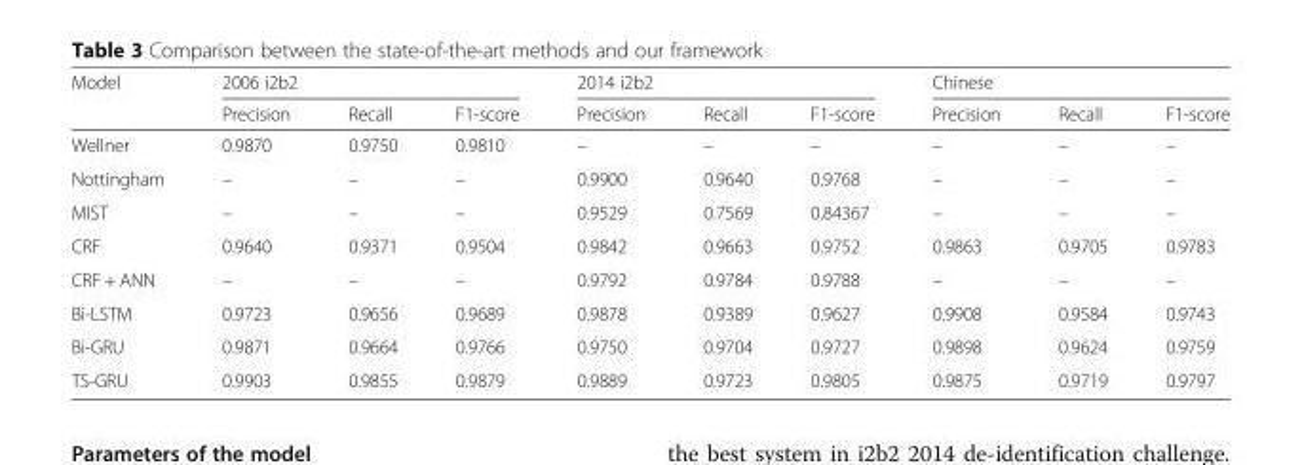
<table><thead><tr><td rowspan="2">Model</td><td colspan="3">2006 i2b2</td><td colspan="3">2014 i2b2</td><td colspan="3">Chinese</td></tr><tr><td>Precision</td><td>Recall</td><td>F1-score</td><td>Precision</td><td>Recall</td><td>F1-score</td><td>Precision</td><td>Recall</td><td>F1-score</td></tr></thead><tbody><tr><td>Wellner</td><td>0.9870</td><td>0.9750</td><td>0.9810</td><td>–</td><td>–</td><td>–</td><td>–</td><td>–</td><td>–</td></tr><tr><td>Nottingham</td><td>–</td><td>–</td><td>–</td><td>0.9900</td><td>0.9640</td><td>0.9768</td><td>–</td><td>–</td><td>–</td></tr><tr><td>MIST</td><td>–</td><td>–</td><td>–</td><td>0.9529</td><td>0.7569</td><td>0.84367</td><td>–</td><td>–</td><td>–</td></tr><tr><td>CRF</td><td>0.9640</td><td>0.9371</td><td>0.9504</td><td>0.9842</td><td>0.9663</td><td>0.9752</td><td>0.9863</td><td>0.9705</td><td>0.9783</td></tr><tr><td>CRF + ANN</td><td>–</td><td>–</td><td>–</td><td>0.9792</td><td>0.9784</td><td>0.9788</td><td>–</td><td>–</td><td>–</td></tr><tr><td>Bi-LSTM</td><td>0.9723</td><td>0.9656</td><td>0.9689</td><td>0.9878</td><td>0.9389</td><td>0.9627</td><td>0.9908</td><td>0.9584</td><td>0.9743</td></tr><tr><td>Bi-GRU</td><td>0.9871</td><td>0.9664</td><td>0.9766</td><td>0.9750</td><td>0.9704</td><td>0.9727</td><td>0.9898</td><td>0.9624</td><td>0.9759</td></tr><tr><td>TS-GRU</td><td>0.9903</td><td>0.9855</td><td>0.9879</td><td>0.9889</td><td>0.9723</td><td>0.9805</td><td>0.9875</td><td>0.9719</td><td>0.9797</td></tr></tbody></table>